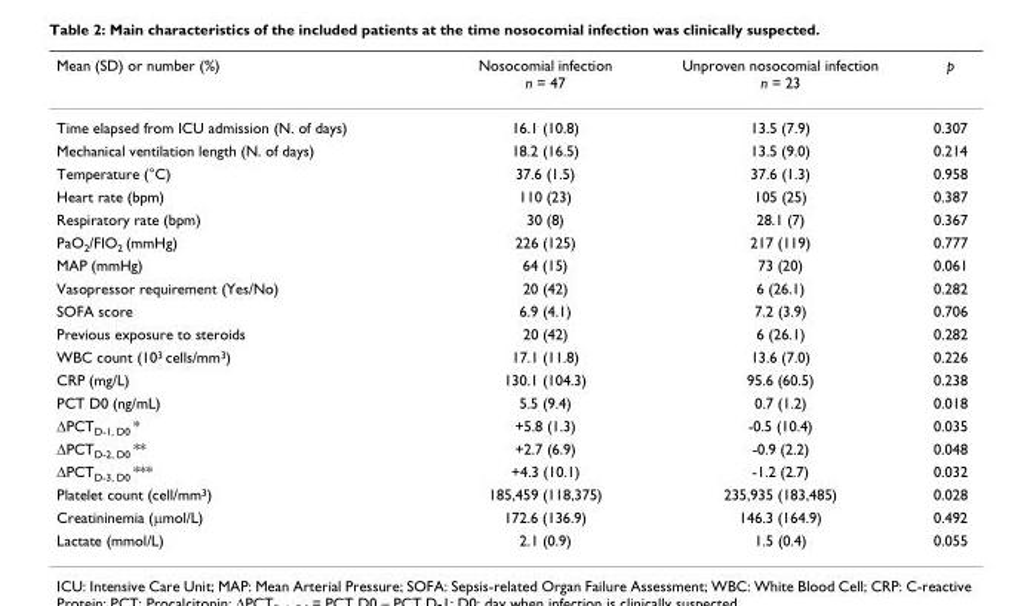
<table><thead><tr><td>Mean (SD) or number (%)</td><td>Nosocomial infection n = 47</td><td>Unproven nosocomial infection n = 23</td><td>p</td></tr></thead><tbody><tr><td>Time elapsed from ICU admission (N. of days)</td><td>16.1 (10.8)</td><td>13.5 (7.9)</td><td>0.307</td></tr><tr><td>Mechanical ventilation length (N. of days)</td><td>18.2 (16.5)</td><td>13.5 (9.0)</td><td>0.214</td></tr><tr><td>Temperature (°C)</td><td>37.6 (1.5)</td><td>37.6 (1.3)</td><td>0.958</td></tr><tr><td>Heart rate (bpm)</td><td>110 (23)</td><td>105 (25)</td><td>0.387</td></tr><tr><td>Respiratory rate (bpm)</td><td>30 (8)</td><td>28.1 (7)</td><td>0.367</td></tr><tr><td>PaO<sub>2</sub>/FIO<sub>2</sub> (mmHg)</td><td>226 (125)</td><td>217 (119)</td><td>0.777</td></tr><tr><td>MAP (mmHg)</td><td>64 (15)</td><td>73 (20)</td><td>0.061</td></tr><tr><td>Vasopressor requirement (Yes/No)</td><td>20 (42)</td><td>6 (26.1)</td><td>0.282</td></tr><tr><td>SOFA score</td><td>6.9 (4.1)</td><td>7.2 (3.9)</td><td>0.706</td></tr><tr><td>Previous exposure to steroids</td><td>20 (42)</td><td>6 (26.1)</td><td>0.282</td></tr><tr><td>WBC count (10<sup>3</sup> cells/mm<sup>3</sup>)</td><td>17.1 (11.8)</td><td>13.6 (7.0)</td><td>0.226</td></tr><tr><td>CRP (mg/L)</td><td>130.1 (104.3)</td><td>95.6 (60.5)</td><td>0.238</td></tr><tr><td>PCT D0 (ng/mL)</td><td>5.5 (9.4)</td><td>0.7 (1.2)</td><td>0.018</td></tr><tr><td>ΔPCT<sub>D-1, D0</sub> *</td><td>+5.8 (1.3)</td><td>-0.5 (10.4)</td><td>0.035</td></tr><tr><td>ΔPCT<sub>D-2, D0</sub> **</td><td>+2.7 (6.9)</td><td>-0.9 (2.2)</td><td>0.048</td></tr><tr><td>ΔPCT<sub>D-3, D0</sub> ***</td><td>+4.3 (10.1)</td><td>-1.2 (2.7)</td><td>0.032</td></tr><tr><td>Platelet count (cell/mm<sup>3</sup>)</td><td>185,459 (118,375)</td><td>235,935 (183,485)</td><td>0.028</td></tr><tr><td>Creatininemia (μmol/L)</td><td>172.6 (136.9)</td><td>146.3 (164.9)</td><td>0.492</td></tr><tr><td>Lactate (mmol/L)</td><td>2.1 (0.9)</td><td>1.5 (0.4)</td><td>0.055</td></tr></tbody></table>